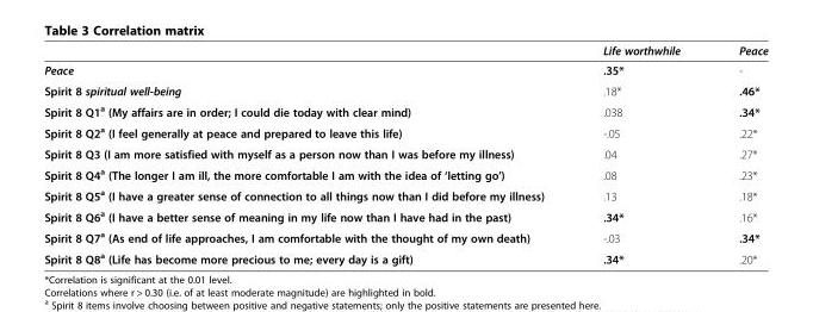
<table><thead><tr><td></td><td>Life worthwhile</td><td>Peace</td></tr></thead><tbody><tr><td>Peace</td><td>.35*</td><td>-</td></tr><tr><td>Spirit 8 spiritual well-being</td><td>.18*</td><td>.46*</td></tr><tr><td>Spirit 8 Q1<sup>a</sup> (My affairs are in order; I could die today with clear mind)</td><td>.038</td><td>.34*</td></tr><tr><td>Spirit 8 Q2<sup>a</sup> (I feel generally at peace and prepared to leave this life)</td><td>-.05</td><td>.22*</td></tr><tr><td>Spirit 8 Q3 (I am more satisfied with myself as a person now than I was before my illness)</td><td>.04</td><td>.27*</td></tr><tr><td>Spirit 8 Q4<sup>a</sup> (The longer I am ill, the more comfortable I am with the idea of ‘letting go’)</td><td>.08</td><td>.23*</td></tr><tr><td>Spirit 8 Q5<sup>a</sup> (I have a greater sense of connection to all things now than I did before my illness)</td><td>.13</td><td>.18*</td></tr><tr><td>Spirit 8 Q6<sup>a</sup> (I have a better sense of meaning in my life now than I have had in the past)</td><td>.34*</td><td>.16*</td></tr><tr><td>Spirit 8 Q7<sup>a</sup> (As end of life approaches, I am comfortable with the thought of my own death)</td><td>-.03</td><td>.34*</td></tr><tr><td>Spirit 8 Q8<sup>a</sup> (Life has become more precious to me; every day is a gift)</td><td>.34*</td><td>.20*</td></tr></tbody></table>